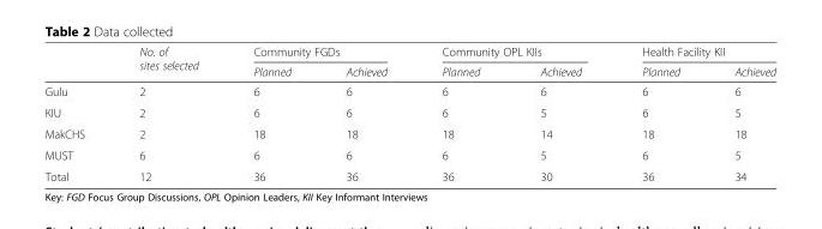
<table><thead><tr><td rowspan="2"></td><td rowspan="2">No. of sites selected</td><td colspan="2">Community FGDs</td><td colspan="2">Community OPL KIIs</td><td colspan="2">Health Facility KII</td></tr><tr><td>Planned</td><td>Achieved</td><td>Planned</td><td>Achieved</td><td>Planned</td><td>Achieved</td></tr></thead><tbody><tr><td>Gulu</td><td>2</td><td>6</td><td>6</td><td>6</td><td>6</td><td>6</td><td>6</td></tr><tr><td>KIU</td><td>2</td><td>6</td><td>6</td><td>6</td><td>5</td><td>6</td><td>5</td></tr><tr><td>MakCHS</td><td>2</td><td>18</td><td>18</td><td>18</td><td>14</td><td>18</td><td>18</td></tr><tr><td>MUST</td><td>6</td><td>6</td><td>6</td><td>6</td><td>5</td><td>6</td><td>5</td></tr><tr><td>Total</td><td>12</td><td>36</td><td>36</td><td>36</td><td>30</td><td>36</td><td>34</td></tr></tbody></table>